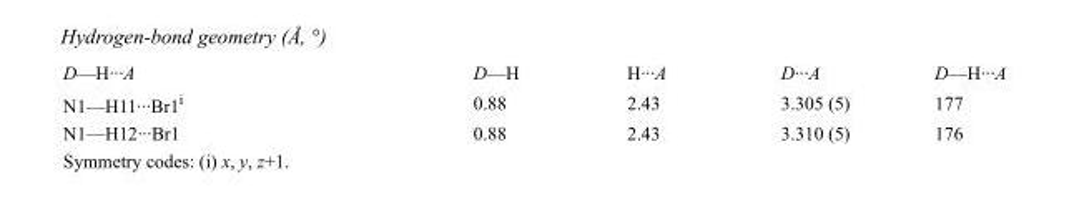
<table><tbody><tr><td>D—H···A</td><td>D—H</td><td>H···A</td><td>D···A</td><td>D—H···A</td></tr><tr><td>N1—H11···Br1<sup>i</sup></td><td>0.88</td><td>2.43</td><td>3.305 (5)</td><td>177</td></tr><tr><td>N1—H12···Br1</td><td>0.88</td><td>2.43</td><td>3.310 (5)</td><td>176</td></tr></tbody></table>